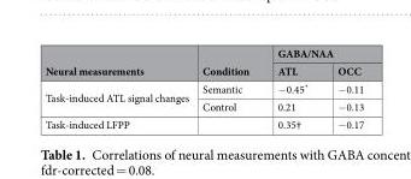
<table><thead><tr><td rowspan="2">Neural measurements</td><td rowspan="2">Condition</td><td colspan="2">GABA/NAA</td></tr><tr><td>ATL</td><td>OCC</td></tr></thead><tbody><tr><td rowspan="2">Task-induced ATL signal changes</td><td>Semantic</td><td>−0.45*</td><td>−0.11</td></tr><tr><td>Control</td><td>0.21</td><td>−0.13</td></tr><tr><td>Task-induced LFPP</td><td></td><td>0.35†</td><td>−0.17</td></tr></tbody></table>